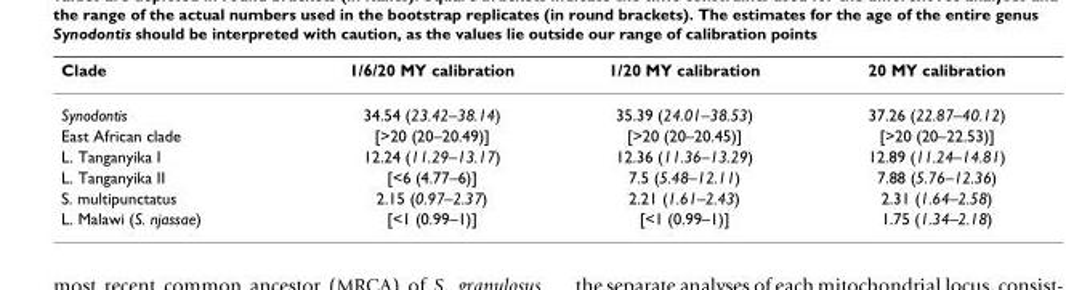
<table><thead><tr><td>Clade</td><td>1/6/20 MY calibration</td><td>1/20 MY calibration</td><td>20 MY calibration</td></tr></thead><tbody><tr><td>Synodontis</td><td>34.54 (23.42–38.14)</td><td>35.39 (24.01–38.53)</td><td>37.26 (22.87–40.12)</td></tr><tr><td>East African clade</td><td>[&gt;20 (20–20.49)]</td><td>[&gt;20 (20–20.45)]</td><td>[&gt;20 (20–22.53)]</td></tr><tr><td>L. Tanganyika I</td><td>12.24 (11.29–13.17)</td><td>12.36 (11.36–13.29)</td><td>12.89 (11.24–14.81)</td></tr><tr><td>L. Tanganyika II</td><td>[&lt;6 (4.77–6)]</td><td>7.5 (5.48–12.11)</td><td>7.88 (5.76–12.36)</td></tr><tr><td>S. multipunctatus</td><td>2.15 (0.97–2.37)</td><td>2.21 (1.61–2.43)</td><td>2.31 (1.64–2.58)</td></tr><tr><td>L. Malawi (S. njassae)</td><td>[&lt;1 (0.99–1)]</td><td>[&lt;1 (0.99–1)]</td><td>1.75 (1.34–2.18)</td></tr></tbody></table>